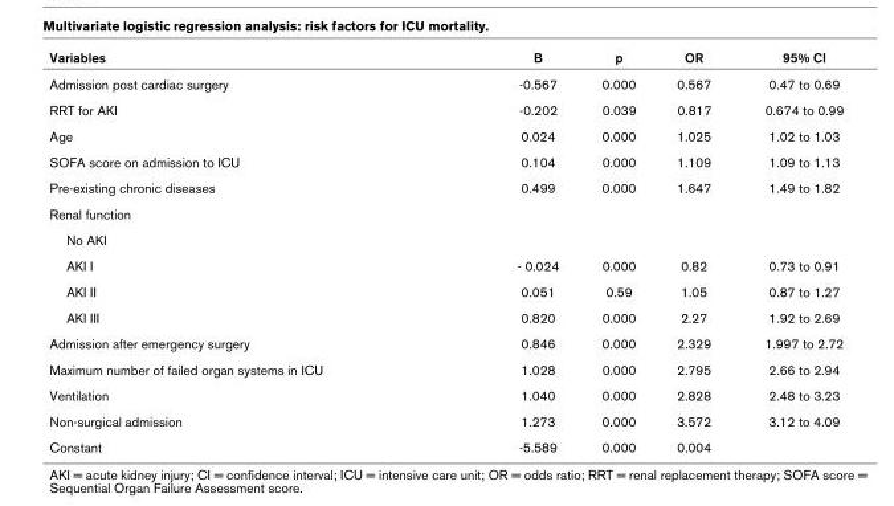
<table><thead><tr><td>Variables</td><td>B</td><td>p</td><td>OR</td><td>95% CI</td></tr></thead><tbody><tr><td>Admission post cardiac surgery</td><td>-0.567</td><td>0.000</td><td>0.567</td><td>0.47 to 0.69</td></tr><tr><td>RRT for AKI</td><td>-0.202</td><td>0.039</td><td>0.817</td><td>0.674 to 0.99</td></tr><tr><td>Age</td><td>0.024</td><td>0.000</td><td>1.025</td><td>1.02 to 1.03</td></tr><tr><td>SOFA score on admission to ICU</td><td>0.104</td><td>0.000</td><td>1.109</td><td>1.09 to 1.13</td></tr><tr><td>Pre-existing chronic diseases</td><td>0.499</td><td>0.000</td><td>1.647</td><td>1.49 to 1.82</td></tr><tr><td colspan="5">Renal function</td></tr><tr><td colspan="5">No AKI</td></tr><tr><td>AKI I</td><td>- 0.024</td><td>0.000</td><td>0.82</td><td>0.73 to 0.91</td></tr><tr><td>AKI II</td><td>0.051</td><td>0.59</td><td>1.05</td><td>0.87 to 1.27</td></tr><tr><td>AKI III</td><td>0.820</td><td>0.000</td><td>2.27</td><td>1.92 to 2.69</td></tr><tr><td>Admission after emergency surgery</td><td>0.846</td><td>0.000</td><td>2.329</td><td>1.997 to 2.72</td></tr><tr><td>Maximum number of failed organ systems in ICU</td><td>1.028</td><td>0.000</td><td>2.795</td><td>2.66 to 2.94</td></tr><tr><td>Ventilation</td><td>1.040</td><td>0.000</td><td>2.828</td><td>2.48 to 3.23</td></tr><tr><td>Non-surgical admission</td><td>1.273</td><td>0.000</td><td>3.572</td><td>3.12 to 4.09</td></tr><tr><td>Constant</td><td>-5.589</td><td>0.000</td><td>0.004</td><td></td></tr></tbody></table>